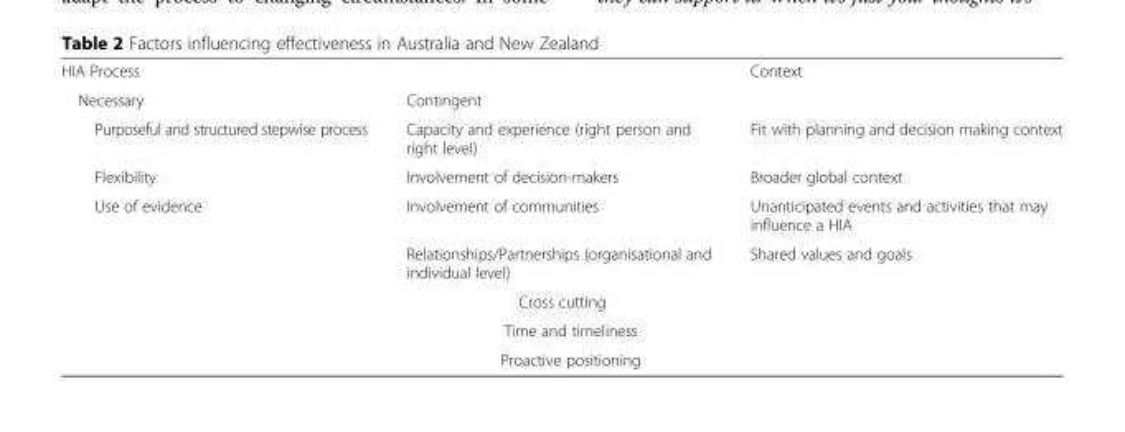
<table><tbody><tr><td colspan="2">HIA Process</td><td rowspan="2">Context</td></tr><tr><td>Necessary</td><td>Contingent</td></tr><tr><td>Purposeful and structured stepwise process</td><td>Capacity and experience (right person and right level)</td><td>Fit with planning and decision making context</td></tr><tr><td>Flexibility</td><td>Involvement of decision-makers</td><td>Broader global context</td></tr><tr><td rowspan="2">Use of evidence</td><td>Involvement of communities</td><td>Unanticipated events and activities that may influence a HIA</td></tr><tr><td>Relationships/Partnerships (organisational and individual level)</td><td>Shared values and goals</td></tr><tr><td colspan="3">Cross cutting</td></tr><tr><td colspan="3">Time and timeliness</td></tr><tr><td colspan="3">Proactive positioning</td></tr></tbody></table>